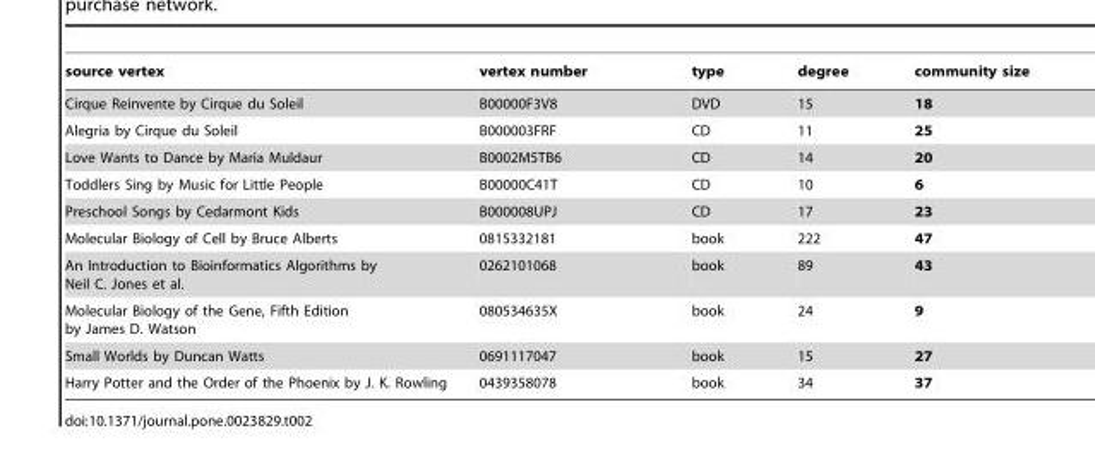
<table><thead><tr><td>source vertex</td><td>vertex number</td><td>type</td><td>degree</td><td>community size</td></tr></thead><tbody><tr><td>Cirque Reinvente by Cirque du Soleil</td><td>B00000F3V8</td><td>DVD</td><td>15</td><td>18</td></tr><tr><td>Alegria by Cirque du Soleil</td><td>B000003FRF</td><td>CD</td><td>11</td><td>25</td></tr><tr><td>Love Wants to Dance by Maria Muldaur</td><td>B0002M5TB6</td><td>CD</td><td>14</td><td>20</td></tr><tr><td>Toddlers Sing by Music for Little People</td><td>B00000C41T</td><td>CD</td><td>10</td><td>6</td></tr><tr><td>Preschool Songs by Cedarmont Kids</td><td>B000008UPJ</td><td>CD</td><td>17</td><td>23</td></tr><tr><td>Molecular Biology of Cell by Bruce Alberts</td><td>0815332181</td><td>book</td><td>222</td><td>47</td></tr><tr><td>An Introduction to Bioinformatics Algorithms by Neil C. Jones et al.</td><td>0262101068</td><td>book</td><td>89</td><td>43</td></tr><tr><td>Molecular Biology of the Gene, Fifth Edition by James D. Watson</td><td>080534635X</td><td>book</td><td>24</td><td>9</td></tr><tr><td>Small Worlds by Duncan Watts</td><td>0691117047</td><td>book</td><td>15</td><td>27</td></tr><tr><td>Harry Potter and the Order of the Phoenix by J. K. Rowling</td><td>0439358078</td><td>book</td><td>34</td><td>37</td></tr></tbody></table>